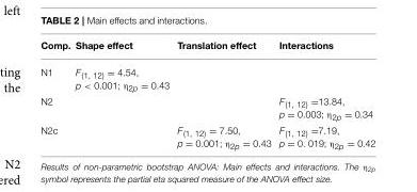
<table><thead><tr><td>Comp.</td><td>Shape effect</td><td>Translation effect</td><td>Interactions</td></tr></thead><tbody><tr><td>N1</td><td>F<sub>(1, 12)</sub> = 4.54, p &lt; 0.001; η<sub>2p</sub> = 0.43</td><td></td><td></td></tr><tr><td>N2</td><td></td><td></td><td>F<sub>(1, 12)</sub> =13.84, p = 0.003; η<sub>2p</sub> = 0.34</td></tr><tr><td>N2c</td><td></td><td>F<sub>(1, 12)</sub> = 7.50, p = 0.001; η<sub>2p</sub> = 0.43</td><td>F<sub>(1, 12)</sub> =7.19, p = 0. 019; η<sub>2p</sub> = 0.42</td></tr></tbody></table>